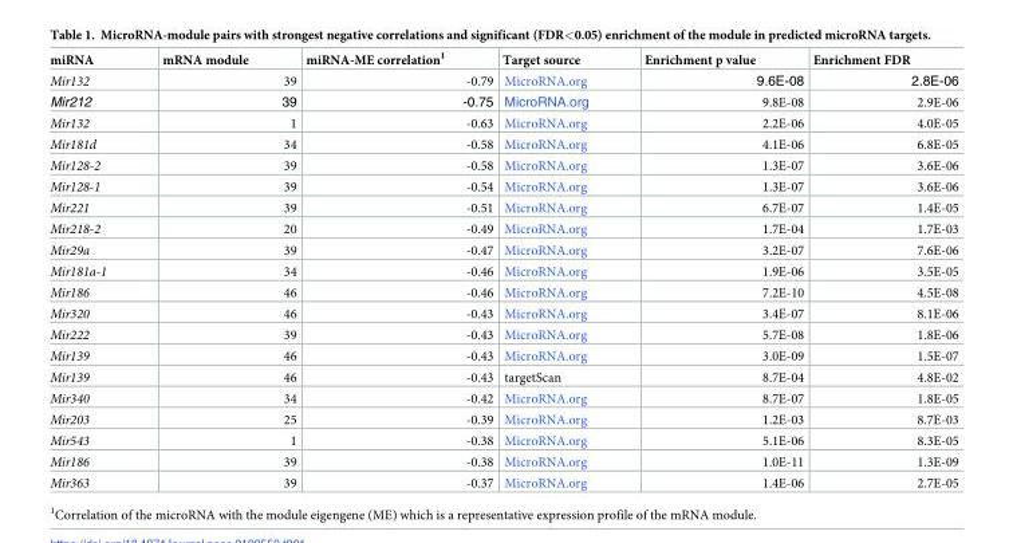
<table><thead><tr><td>miRNA</td><td>mRNA module</td><td>miRNA-ME correlation<sup>1</sup></td><td>Target source</td><td>Enrichment p value</td><td>Enrichment FDR</td></tr></thead><tbody><tr><td>Mir132</td><td>39</td><td>-0.79</td><td>MicroRNA.org</td><td>9.6E-08</td><td>2.8E-06</td></tr><tr><td>Mir212</td><td>39</td><td>-0.75</td><td>MicroRNA.org</td><td>9.8E-08</td><td>2.9E-06</td></tr><tr><td>Mir132</td><td>1</td><td>-0.63</td><td>MicroRNA.org</td><td>2.2E-06</td><td>4.0E-05</td></tr><tr><td>Mir181d</td><td>34</td><td>-0.58</td><td>MicroRNA.org</td><td>4.1E-06</td><td>6.8E-05</td></tr><tr><td>Mir128-2</td><td>39</td><td>-0.58</td><td>MicroRNA.org</td><td>1.3E-07</td><td>3.6E-06</td></tr><tr><td>Mir128-1</td><td>39</td><td>-0.54</td><td>MicroRNA.org</td><td>1.3E-07</td><td>3.6E-06</td></tr><tr><td>Mir221</td><td>39</td><td>-0.51</td><td>MicroRNA.org</td><td>6.7E-07</td><td>1.4E-05</td></tr><tr><td>Mir218-2</td><td>20</td><td>-0.49</td><td>MicroRNA.org</td><td>1.7E-04</td><td>1.7E-03</td></tr><tr><td>Mir29a</td><td>39</td><td>-0.47</td><td>MicroRNA.org</td><td>3.2E-07</td><td>7.6E-06</td></tr><tr><td>Mir181a-1</td><td>34</td><td>-0.46</td><td>MicroRNA.org</td><td>1.9E-06</td><td>3.5E-05</td></tr><tr><td>Mir186</td><td>46</td><td>-0.46</td><td>MicroRNA.org</td><td>7.2E-10</td><td>4.5E-08</td></tr><tr><td>Mir320</td><td>46</td><td>-0.43</td><td>MicroRNA.org</td><td>3.4E-07</td><td>8.1E-06</td></tr><tr><td>Mir222</td><td>39</td><td>-0.43</td><td>MicroRNA.org</td><td>5.7E-08</td><td>1.8E-06</td></tr><tr><td>Mir139</td><td>46</td><td>-0.43</td><td>MicroRNA.org</td><td>3.0E-09</td><td>1.5E-07</td></tr><tr><td>Mir139</td><td>46</td><td>-0.43</td><td>targetScan</td><td>8.7E-04</td><td>4.8E-02</td></tr><tr><td>Mir340</td><td>34</td><td>-0.42</td><td>MicroRNA.org</td><td>8.7E-07</td><td>1.8E-05</td></tr><tr><td>Mir203</td><td>25</td><td>-0.39</td><td>MicroRNA.org</td><td>1.2E-03</td><td>8.7E-03</td></tr><tr><td>Mir543</td><td>1</td><td>-0.38</td><td>MicroRNA.org</td><td>5.1E-06</td><td>8.3E-05</td></tr><tr><td>Mir186</td><td>39</td><td>-0.38</td><td>MicroRNA.org</td><td>1.0E-11</td><td>1.3E-09</td></tr><tr><td>Mir363</td><td>39</td><td>-0.37</td><td>MicroRNA.org</td><td>1.4E-06</td><td>2.7E-05</td></tr></tbody></table>